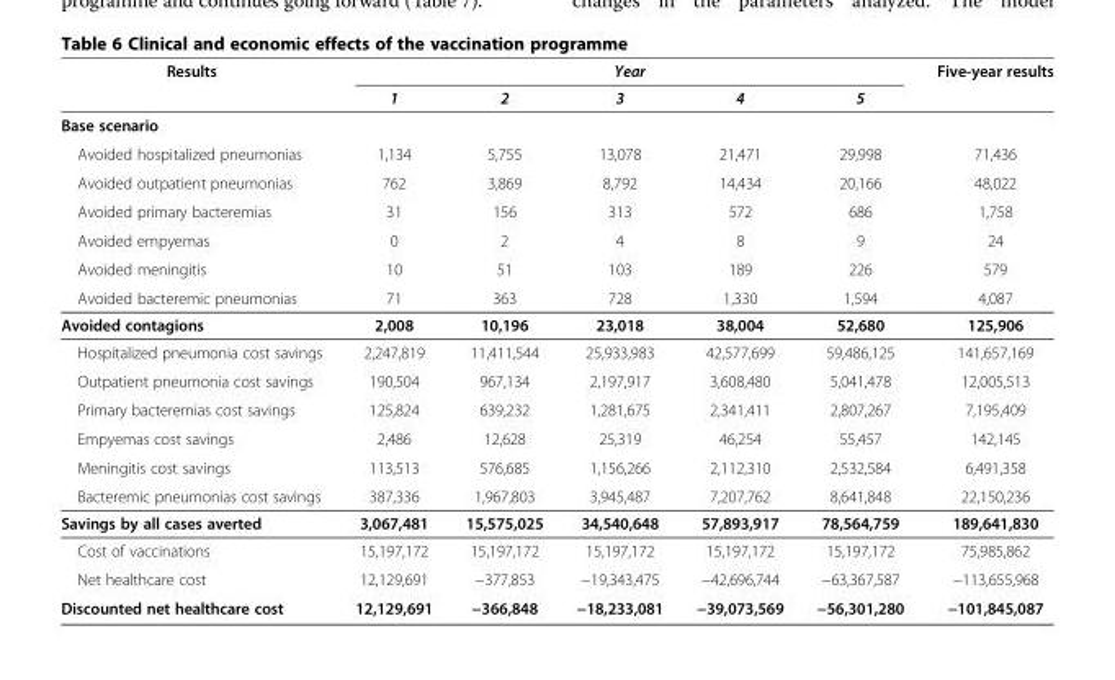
<table><thead><tr><td rowspan="2">Results</td><td colspan="5">Year</td><td rowspan="2">Five-year results</td></tr><tr><td>1</td><td>2</td><td>3</td><td>4</td><td>5</td></tr></thead><tbody><tr><td colspan="7">Base scenario</td></tr><tr><td>Avoided hospitalized pneumonias</td><td>1,134</td><td>5,755</td><td>13,078</td><td>21,471</td><td>29,998</td><td>71,436</td></tr><tr><td>Avoided outpatient pneumonias</td><td>762</td><td>3,869</td><td>8,792</td><td>14,434</td><td>20,166</td><td>48,022</td></tr><tr><td>Avoided primary bacteremias</td><td>31</td><td>156</td><td>313</td><td>572</td><td>686</td><td>1,758</td></tr><tr><td>Avoided empyemas</td><td>0</td><td>2</td><td>4</td><td>8</td><td>9</td><td>24</td></tr><tr><td>Avoided meningitis</td><td>10</td><td>51</td><td>103</td><td>189</td><td>226</td><td>579</td></tr><tr><td>Avoided bacteremic pneumonias</td><td>71</td><td>363</td><td>728</td><td>1,330</td><td>1,594</td><td>4,087</td></tr><tr><td>Avoided contagions</td><td>2,008</td><td>10,196</td><td>23,018</td><td>38,004</td><td>52,680</td><td>125,906</td></tr><tr><td>Hospitalized pneumonia cost savings</td><td>2,247,819</td><td>11,411,544</td><td>25,933,983</td><td>42,577,699</td><td>59,486,125</td><td>141,657,169</td></tr><tr><td>Outpatient pneumonia cost savings</td><td>190,504</td><td>967,134</td><td>2,197,917</td><td>3,608,480</td><td>5,041,478</td><td>12,005,513</td></tr><tr><td>Primary bacteremias cost savings</td><td>125,824</td><td>639,232</td><td>1,281,675</td><td>2,341,411</td><td>2,807,267</td><td>7,195,409</td></tr><tr><td>Empyemas cost savings</td><td>2,486</td><td>12,628</td><td>25,319</td><td>46,254</td><td>55,457</td><td>142,145</td></tr><tr><td>Meningitis cost savings</td><td>113,513</td><td>576,685</td><td>1,156,266</td><td>2,112,310</td><td>2,532,584</td><td>6,491,358</td></tr><tr><td>Bacteremic pneumonias cost savings</td><td>387,336</td><td>1,967,803</td><td>3,945,487</td><td>7,207,762</td><td>8,641,848</td><td>22,150,236</td></tr><tr><td>Savings by all cases averted</td><td>3,067,481</td><td>15,575,025</td><td>34,540,648</td><td>57,893,917</td><td>78,564,759</td><td>189,641,830</td></tr><tr><td>Cost of vaccinations</td><td>15,197,172</td><td>15,197,172</td><td>15,197,172</td><td>15,197,172</td><td>15,197,172</td><td>75,985,862</td></tr><tr><td>Net healthcare cost</td><td>12,129,691</td><td>−377,853</td><td>−19,343,475</td><td>−42,696,744</td><td>−63,367,587</td><td>−113,655,968</td></tr><tr><td>Discounted net healthcare cost</td><td>12,129,691</td><td>−366,848</td><td>−18,233,081</td><td>−39,073,569</td><td>−56,301,280</td><td>−101,845,087</td></tr></tbody></table>